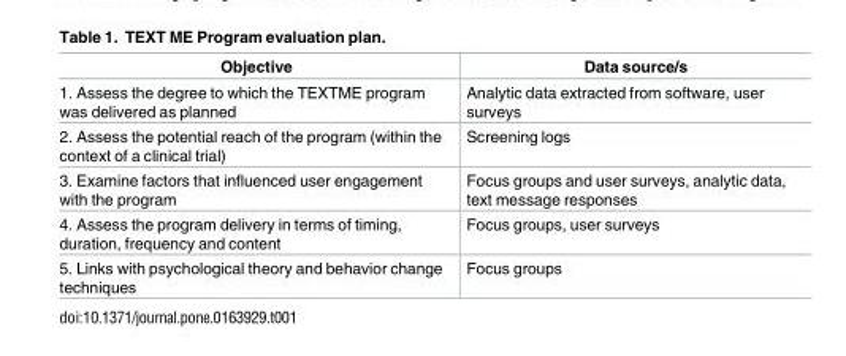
<table><thead><tr><td>Objective</td><td>Data source/s</td></tr></thead><tbody><tr><td>1. Assess the degree to which the TEXTME program was delivered as planned</td><td>Analytic data extracted from software, user surveys</td></tr><tr><td>2. Assess the potential reach of the program (within the context of a clinical trial)</td><td>Screening logs</td></tr><tr><td>3. Examine factors that influenced user engagement with the program</td><td>Focus groups and user surveys, analytic data, text message responses</td></tr><tr><td>4. Assess the program delivery in terms of timing, duration, frequency and content</td><td>Focus groups, user surveys</td></tr><tr><td>5. Links with psychological theory and behavior change techniques</td><td>Focus groups</td></tr></tbody></table>